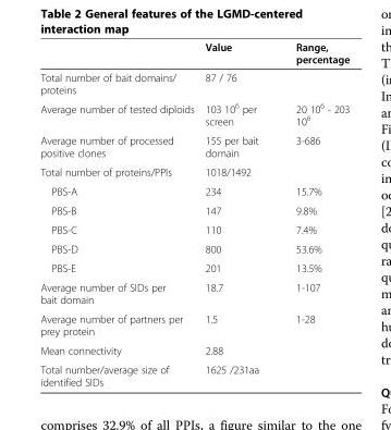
<table><thead><tr><td></td><td>Value</td><td>Range, percentage</td></tr></thead><tbody><tr><td>Total number of bait domains/ proteins</td><td>87 / 76</td><td></td></tr><tr><td>Average number of tested diploids</td><td>103 10<sup>6</sup> per screen</td><td>20 10<sup>6</sup> - 203 10<sup>6</sup></td></tr><tr><td>Average number of processed positive clones</td><td>155 per bait domain</td><td>3-686</td></tr><tr><td>Total number of proteins/PPIs</td><td>1018/1492</td><td></td></tr><tr><td>PBS-A</td><td>234</td><td>15.7%</td></tr><tr><td>PBS-B</td><td>147</td><td>9.8%</td></tr><tr><td>PBS-C</td><td>110</td><td>7.4%</td></tr><tr><td>PBS-D</td><td>800</td><td>53.6%</td></tr><tr><td>PBS-E</td><td>201</td><td>13.5%</td></tr><tr><td>Average number of SIDs per bait domain</td><td>18.7</td><td>1-107</td></tr><tr><td>Average number of partners per prey protein</td><td>1.5</td><td>1-28</td></tr><tr><td>Mean connectivity</td><td>2.88</td><td></td></tr><tr><td>Total number/average size of identified SIDs</td><td>1625 /231aa</td><td></td></tr></tbody></table>